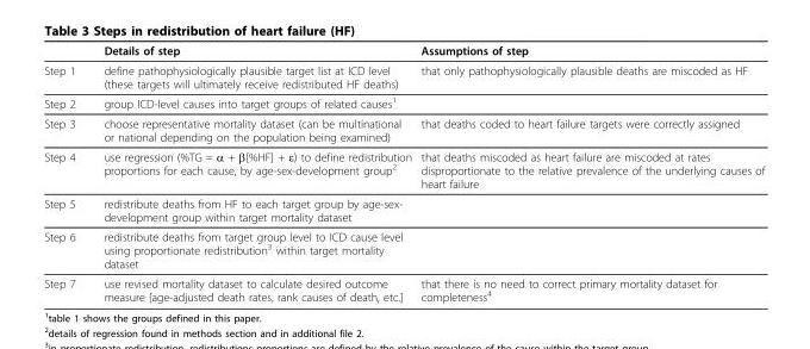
<table><thead><tr><td></td><td>Details of step</td><td>Assumptions of step</td></tr></thead><tbody><tr><td>Step 1</td><td>define pathophysiologically plausible target list at ICD level (these targets will ultimately receive redistributed HF deaths)</td><td>that only pathophysiologically plausible deaths are miscoded as HF</td></tr><tr><td>Step 2</td><td>group ICD-level causes into target groups of related causes<sup>1</sup></td><td></td></tr><tr><td>Step 3</td><td>choose representative mortality dataset (can be multinational or national depending on the population being examined)</td><td>that deaths coded to heart failure targets were correctly assigned</td></tr><tr><td>Step 4</td><td>use regression (%TG = α + β[%HF] + ε) to define redistribution proportions for each cause, by age-sex-development group<sup>2</sup></td><td>that deaths miscoded as heart failure are miscoded at rates disproportionate to the relative prevalence of the underlying causes of heart failure</td></tr><tr><td>Step 5</td><td>redistribute deaths from HF to each target group by age-sex- development group within target mortality dataset</td><td></td></tr><tr><td>Step 6</td><td>redistribute deaths from target group level to ICD cause level using proportionate redistribution<sup>3</sup> within target mortality dataset</td><td></td></tr><tr><td>Step 7</td><td>use revised mortality dataset to calculate desired outcome measure [age-adjusted death rates, rank causes of death, etc.]</td><td>that there is no need to correct primary mortality dataset for completeness<sup>4</sup></td></tr></tbody></table>